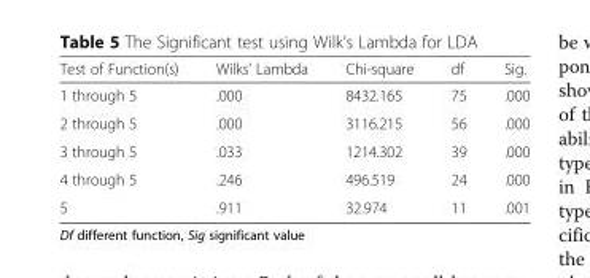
<table><thead><tr><td>Test of Function(s)</td><td>Wilks&#x27; Lambda</td><td>Chi-square</td><td>df</td><td>Sig.</td></tr></thead><tbody><tr><td>1 through 5</td><td>.000</td><td>8432.165</td><td>75</td><td>.000</td></tr><tr><td>2 through 5</td><td>.000</td><td>3116.215</td><td>56</td><td>.000</td></tr><tr><td>3 through 5</td><td>.033</td><td>1214.302</td><td>39</td><td>.000</td></tr><tr><td>4 through 5</td><td>.246</td><td>496.519</td><td>24</td><td>.000</td></tr><tr><td>5</td><td>.911</td><td>32.974</td><td>11</td><td>.001</td></tr></tbody></table>